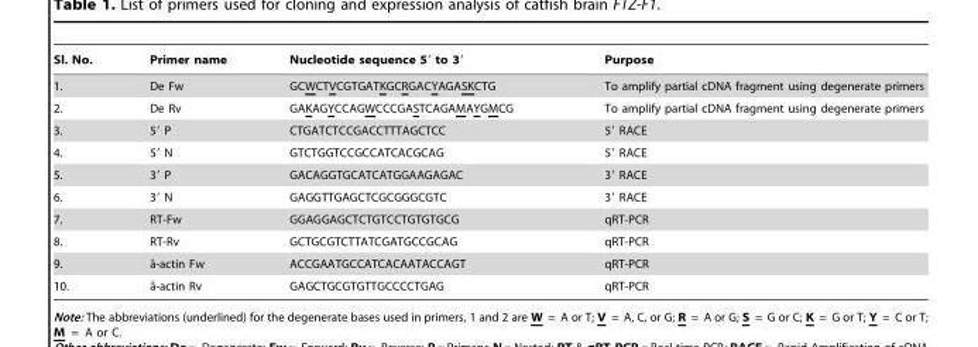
<table><thead><tr><td>Sl. No.</td><td>Primer name</td><td>Nucleotide sequence 5′ to 3′</td><td>Purpose</td></tr></thead><tbody><tr><td>1.</td><td>De Fw</td><td>GCWCTVCGTGATKGCRGACYAGASKCTG</td><td>To amplify partial cDNA fragment using degenerate primers</td></tr><tr><td>2.</td><td>De Rv</td><td>GAKAGYCCAGWCCCGASTCAGAMAYGMCG</td><td>To amplify partial cDNA fragment using degenerate primers</td></tr><tr><td>3.</td><td>5′ P</td><td>CTGATCTCCGACCTTTAGCTCC</td><td>5′ RACE</td></tr><tr><td>4.</td><td>5′ N</td><td>GTCTGGTCCGCCATCACGCAG</td><td>5′ RACE</td></tr><tr><td>5.</td><td>3′ P</td><td>GACAGGTGCATCATGGAAGAGAC</td><td>3′ RACE</td></tr><tr><td>6.</td><td>3′ N</td><td>GAGGTTGAGCTCGCGGGCGTC</td><td>3′ RACE</td></tr><tr><td>7.</td><td>RT-Fw</td><td>GGAGGAGCTCTGTCCTGTGTGCG</td><td>qRT-PCR</td></tr><tr><td>8.</td><td>RT-Rv</td><td>GCTGCGTCTTATCGATGCCGCAG</td><td>qRT-PCR</td></tr><tr><td>9.</td><td>aˆ-actin Fw</td><td>ACCGAATGCCATCACAATACCAGT</td><td>qRT-PCR</td></tr><tr><td>10.</td><td>aˆ-actin Rv</td><td>GAGCTGCGTGTTGCCCCTGAG</td><td>qRT-PCR</td></tr></tbody></table>